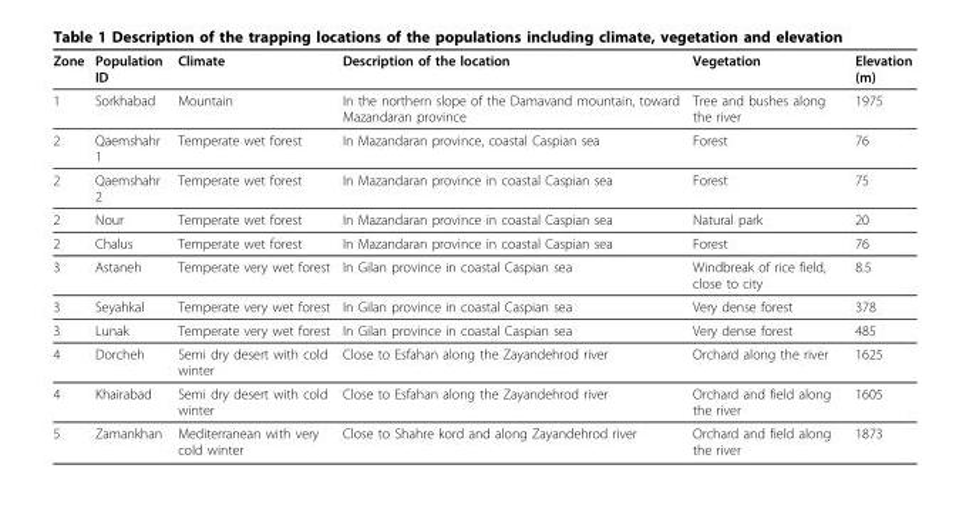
<table><thead><tr><td>Zone</td><td>Population ID</td><td>Climate</td><td>Description of the location</td><td>Vegetation</td><td>Elevation (m)</td></tr></thead><tbody><tr><td>1</td><td>Sorkhabad</td><td>Mountain</td><td>In the northern slope of the Damavand mountain, toward Mazandaran province</td><td>Tree and bushes along the river</td><td>1975</td></tr><tr><td>2</td><td>Qaemshahr 1</td><td>Temperate wet forest</td><td>In Mazandaran province, coastal Caspian sea</td><td>Forest</td><td>76</td></tr><tr><td>2</td><td>Qaemshahr 2</td><td>Temperate wet forest</td><td>In Mazandaran province in coastal Caspian sea</td><td>Forest</td><td>75</td></tr><tr><td>2</td><td>Nour</td><td>Temperate wet forest</td><td>In Mazandaran province in coastal Caspian sea</td><td>Natural park</td><td>20</td></tr><tr><td>2</td><td>Chalus</td><td>Temperate wet forest</td><td>In Mazandaran province in coastal Caspian sea</td><td>Forest</td><td>76</td></tr><tr><td>3</td><td>Astaneh</td><td>Temperate very wet forest</td><td>In Gilan province in coastal Caspian sea</td><td>Windbreak of rice field, close to city</td><td>8.5</td></tr><tr><td>3</td><td>Seyahkal</td><td>Temperate very wet forest</td><td>In Gilan province in coastal Caspian sea</td><td>Very dense forest</td><td>378</td></tr><tr><td>3</td><td>Lunak</td><td>Temperate very wet forest</td><td>In Gilan province in coastal Caspian sea</td><td>Very dense forest</td><td>485</td></tr><tr><td>4</td><td>Dorcheh</td><td>Semi dry desert with cold winter</td><td>Close to Esfahan along the Zayandehrod river</td><td>Orchard along the river</td><td>1625</td></tr><tr><td>4</td><td>Khairabad</td><td>Semi dry desert with cold winter</td><td>Close to Esfahan along the Zayandehrod river</td><td>Orchard and field along the river</td><td>1605</td></tr><tr><td>5</td><td>Zamankhan</td><td>Mediterranean with very cold winter</td><td>Close to Shahre kord and along Zayandehrod river</td><td>Orchard and field along the river</td><td>1873</td></tr></tbody></table>